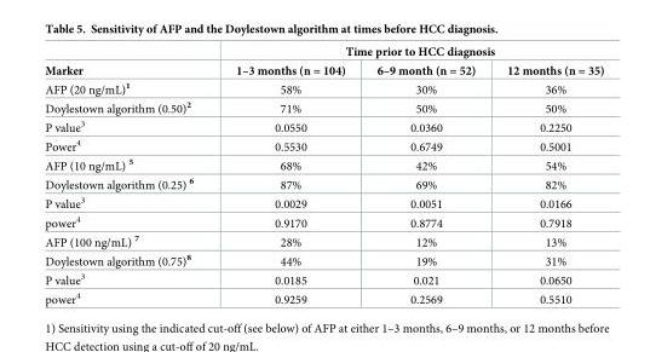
<table><thead><tr><td rowspan="2">Marker</td><td colspan="3">Time prior to HCC diagnosis</td></tr><tr><td>1–3 months (n = 104)</td><td>6–9 month (n = 52)</td><td>12 months (n = 35)</td></tr></thead><tbody><tr><td>AFP (20 ng/mL)<sup>1</sup></td><td>58%</td><td>30%</td><td>36%</td></tr><tr><td>Doylestown algorithm (0.50)<sup>2</sup></td><td>71%</td><td>50%</td><td>50%</td></tr><tr><td>P value<sup>3</sup></td><td>0.0550</td><td>0.0360</td><td>0.2250</td></tr><tr><td>Power<sup>4</sup></td><td>0.5530</td><td>0.6749</td><td>0.5001</td></tr><tr><td>AFP (10 ng/mL) <sup>5</sup></td><td>68%</td><td>42%</td><td>54%</td></tr><tr><td>Doylestown algorithm (0.25) <sup>6</sup></td><td>87%</td><td>69%</td><td>82%</td></tr><tr><td>P value<sup>3</sup></td><td>0.0029</td><td>0.0051</td><td>0.0166</td></tr><tr><td>power<sup>4</sup></td><td>0.9170</td><td>0.8774</td><td>0.7918</td></tr><tr><td>AFP (100 ng/mL) <sup>7</sup></td><td>28%</td><td>12%</td><td>13%</td></tr><tr><td>Doylestown algorithm (0.75)<sup>8</sup></td><td>44%</td><td>19%</td><td>31%</td></tr><tr><td>P value<sup>3</sup></td><td>0.0185</td><td>0.021</td><td>0.0650</td></tr><tr><td>power<sup>4</sup></td><td>0.9259</td><td>0.2569</td><td>0.5510</td></tr></tbody></table>